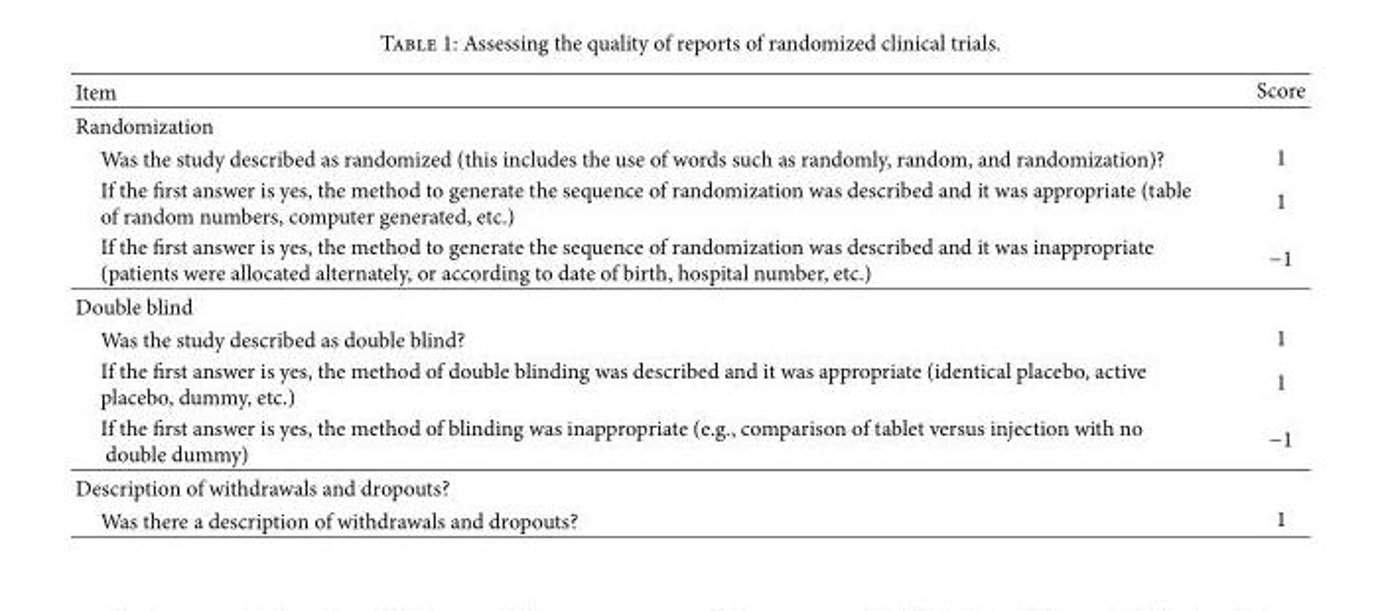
<table><thead><tr><td>Item</td><td>Score</td></tr></thead><tbody><tr><td colspan="2">Randomization</td></tr><tr><td>Was the study described as randomized (this includes the use of words such as randomly, random, and randomization)?</td><td>1</td></tr><tr><td>If the �rst answer is yes, the method to generate the sequence of randomization was described and it was appropriate (table of random numbers, computer generated, etc.)</td><td>1</td></tr><tr><td>If the �rst answer is yes, the method to generate the sequence of randomization was described and it was inappropriate (patients were allocated alternately, or according to date of birth, hospital number, etc.)</td><td>−1</td></tr><tr><td colspan="2">Double blind</td></tr><tr><td>Was the study described as double blind?</td><td>1</td></tr><tr><td>If the �rst answer is yes, the method of double blinding was described and it was appropriate (identical placebo, active placebo, dummy, etc.)</td><td>1</td></tr><tr><td>If the �rst answer is yes, the method of blinding was inappropriate (e.g., comparison of tablet versus injection with no double dummy)</td><td>−1</td></tr><tr><td colspan="2">Description of withdrawals and dropouts?</td></tr><tr><td>Was there a description of withdrawals and dropouts?</td><td>1</td></tr></tbody></table>